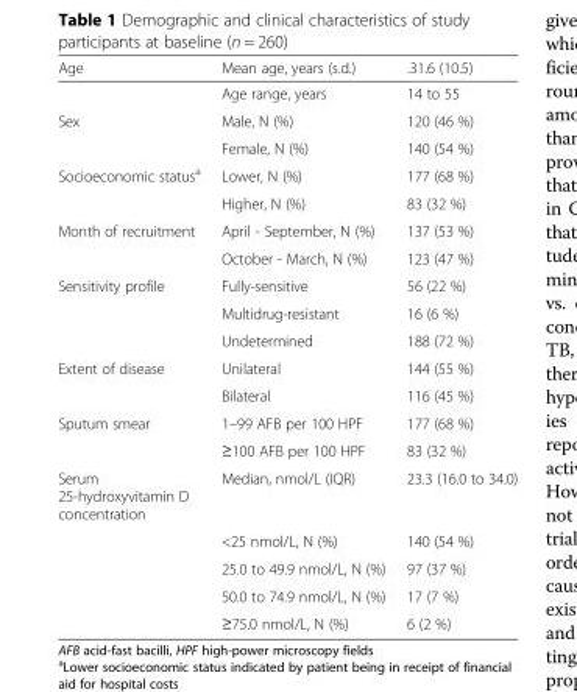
<table><thead><tr><td>Age</td><td>Mean age, years (s.d.)</td><td>.31.6 (10.5)</td></tr></thead><tbody><tr><td></td><td>Age range, years</td><td>14 to 55</td></tr><tr><td rowspan="2">Sex</td><td>Male, N (%)</td><td>120 (46 %)</td></tr><tr><td>Female, N (%)</td><td>140 (54 %)</td></tr><tr><td rowspan="2">Socioeconomic status<sup>a</sup></td><td>Lower, N (%)</td><td>177 (68 %)</td></tr><tr><td>Higher, N (%)</td><td>83 (32 %)</td></tr><tr><td rowspan="2">Month of recruitment</td><td>April - September, N (%)</td><td>137 (53 %)</td></tr><tr><td>October - March, N (%)</td><td>123 (47 %)</td></tr><tr><td rowspan="3">Sensitivity profile</td><td>Fully-sensitive</td><td>56 (22 %)</td></tr><tr><td>Multidrug-resistant</td><td>16 (6 %)</td></tr><tr><td>Undetermined</td><td>188 (72 %)</td></tr><tr><td rowspan="2">Extent of disease</td><td>Unilateral</td><td>144 (55 %)</td></tr><tr><td>Bilateral</td><td>116 (45 %)</td></tr><tr><td rowspan="2">Sputum smear</td><td>1–99 AFB per 100 HPF</td><td>177 (68 %)</td></tr><tr><td>≥100 AFB per 100 HPF</td><td>83 (32 %)</td></tr><tr><td rowspan="5">Serum 25-hydroxyvitamin D concentration</td><td>Median, nmol/L (IQR)</td><td>23.3 (16.0 to 34.0)</td></tr><tr><td>&lt;25 nmol/L, N (%)</td><td>140 (54 %)</td></tr><tr><td>25.0 to 49.9 nmol/L, N (%)</td><td>97 (37 %)</td></tr><tr><td>50.0 to 74.9 nmol/L, N (%)</td><td>17 (7 %)</td></tr><tr><td>≥75.0 nmol/L, N (%)</td><td>6 (2 %)</td></tr></tbody></table>